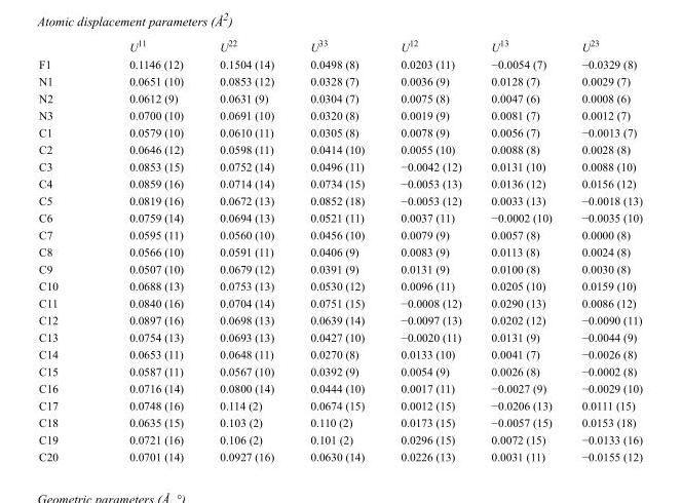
<table><thead><tr><td></td><td>U<sup>11</sup></td><td>U<sup>22</sup></td><td>U<sup>33</sup></td><td>U<sup>12</sup></td><td>U<sup>13</sup></td><td>U<sup>23</sup></td></tr></thead><tbody><tr><td>F1</td><td>0.1146 (12)</td><td>0.1504 (14)</td><td>0.0498 (8)</td><td>0.0203 (11)</td><td>−0.0054 (7)</td><td>−0.0329 (8)</td></tr><tr><td>N1</td><td>0.0651 (10)</td><td>0.0853 (12)</td><td>0.0328 (7)</td><td>0.0036 (9)</td><td>0.0128 (7)</td><td>0.0029 (7)</td></tr><tr><td>N2</td><td>0.0612 (9)</td><td>0.0631 (9)</td><td>0.0304 (7)</td><td>0.0075 (8)</td><td>0.0047 (6)</td><td>0.0008 (6)</td></tr><tr><td>N3</td><td>0.0700 (10)</td><td>0.0691 (10)</td><td>0.0320 (8)</td><td>0.0019 (9)</td><td>0.0081 (7)</td><td>0.0012 (7)</td></tr><tr><td>C1</td><td>0.0579 (10)</td><td>0.0610 (11)</td><td>0.0305 (8)</td><td>0.0078 (9)</td><td>0.0056 (7)</td><td>−0.0013 (7)</td></tr><tr><td>C2</td><td>0.0646 (12)</td><td>0.0598 (11)</td><td>0.0414 (10)</td><td>0.0055 (10)</td><td>0.0088 (8)</td><td>0.0028 (8)</td></tr><tr><td>C3</td><td>0.0853 (15)</td><td>0.0752 (14)</td><td>0.0496 (11)</td><td>−0.0042 (12)</td><td>0.0131 (10)</td><td>0.0088 (10)</td></tr><tr><td>C4</td><td>0.0859 (16)</td><td>0.0714 (14)</td><td>0.0734 (15)</td><td>−0.0053 (13)</td><td>0.0136 (12)</td><td>0.0156 (12)</td></tr><tr><td>C5</td><td>0.0819 (16)</td><td>0.0672 (13)</td><td>0.0852 (18)</td><td>−0.0053 (12)</td><td>0.0033 (13)</td><td>−0.0018 (13)</td></tr><tr><td>C6</td><td>0.0759 (14)</td><td>0.0694 (13)</td><td>0.0521 (11)</td><td>0.0037 (11)</td><td>−0.0002 (10)</td><td>−0.0035 (10)</td></tr><tr><td>C7</td><td>0.0595 (11)</td><td>0.0560 (10)</td><td>0.0456 (10)</td><td>0.0079 (9)</td><td>0.0057 (8)</td><td>0.0000 (8)</td></tr><tr><td>C8</td><td>0.0566 (10)</td><td>0.0591 (11)</td><td>0.0406 (9)</td><td>0.0083 (9)</td><td>0.0113 (8)</td><td>0.0024 (8)</td></tr><tr><td>C9</td><td>0.0507 (10)</td><td>0.0679 (12)</td><td>0.0391 (9)</td><td>0.0131 (9)</td><td>0.0100 (8)</td><td>0.0030 (8)</td></tr><tr><td>C10</td><td>0.0688 (13)</td><td>0.0753 (13)</td><td>0.0530 (12)</td><td>0.0096 (11)</td><td>0.0205 (10)</td><td>0.0159 (10)</td></tr><tr><td>C11</td><td>0.0840 (16)</td><td>0.0704 (14)</td><td>0.0751 (15)</td><td>−0.0008 (12)</td><td>0.0290 (13)</td><td>0.0086 (12)</td></tr><tr><td>C12</td><td>0.0897 (16)</td><td>0.0698 (13)</td><td>0.0639 (14)</td><td>−0.0097 (13)</td><td>0.0202 (12)</td><td>−0.0090 (11)</td></tr><tr><td>C13</td><td>0.0754 (13)</td><td>0.0693 (13)</td><td>0.0427 (10)</td><td>−0.0020 (11)</td><td>0.0131 (9)</td><td>−0.0044 (9)</td></tr><tr><td>C14</td><td>0.0653 (11)</td><td>0.0648 (11)</td><td>0.0270 (8)</td><td>0.0133 (10)</td><td>0.0041 (7)</td><td>−0.0026 (8)</td></tr><tr><td>C15</td><td>0.0587 (11)</td><td>0.0567 (10)</td><td>0.0392 (9)</td><td>0.0054 (9)</td><td>0.0026 (8)</td><td>−0.0002 (8)</td></tr><tr><td>C16</td><td>0.0716 (14)</td><td>0.0800 (14)</td><td>0.0444 (10)</td><td>0.0017 (11)</td><td>−0.0027 (9)</td><td>−0.0029 (10)</td></tr><tr><td>C17</td><td>0.0748 (16)</td><td>0.114 (2)</td><td>0.0674 (15)</td><td>0.0012 (15)</td><td>−0.0206 (13)</td><td>0.0111 (15)</td></tr><tr><td>C18</td><td>0.0635 (15)</td><td>0.103 (2)</td><td>0.110 (2)</td><td>0.0173 (15)</td><td>−0.0057 (15)</td><td>0.0153 (18)</td></tr><tr><td>C19</td><td>0.0721 (16)</td><td>0.106 (2)</td><td>0.101 (2)</td><td>0.0296 (15)</td><td>0.0072 (15)</td><td>−0.0133 (16)</td></tr><tr><td>C20</td><td>0.0701 (14)</td><td>0.0927 (16)</td><td>0.0630 (14)</td><td>0.0226 (13)</td><td>0.0031 (11)</td><td>−0.0155 (12)</td></tr></tbody></table>